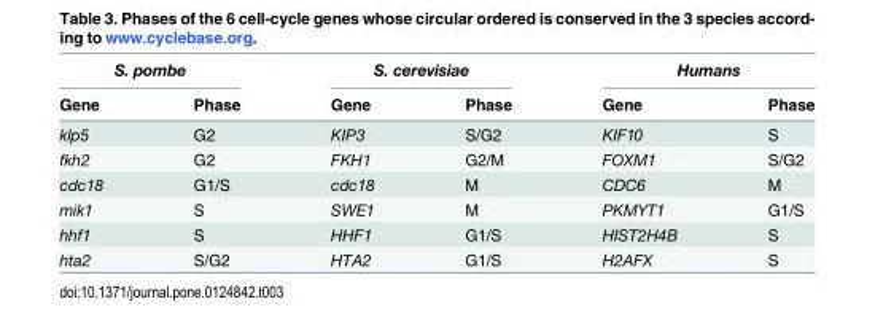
<table><thead><tr><td colspan="2">S. pombe</td><td colspan="2">S. cerevisiae</td><td colspan="2">Humans</td></tr><tr><td>Gene</td><td>Phase</td><td>Gene</td><td>Phase</td><td>Gene</td><td>Phase</td></tr></thead><tbody><tr><td>klp5</td><td>G2</td><td>KIP3</td><td>S/G2</td><td>KIF10</td><td>S</td></tr><tr><td>fkh2</td><td>G2</td><td>FKH1</td><td>G2/M</td><td>FOXM1</td><td>S/G2</td></tr><tr><td>cdc18</td><td>G1/S</td><td>cdc18</td><td>M</td><td>CDC6</td><td>M</td></tr><tr><td>mik1</td><td>S</td><td>SWE1</td><td>M</td><td>PKMYT1</td><td>G1/S</td></tr><tr><td>hhf1</td><td>S</td><td>HHF1</td><td>G1/S</td><td>HIST2H4B</td><td>S</td></tr><tr><td>hta2</td><td>S/G2</td><td>HTA2</td><td>G1/S</td><td>H2AFX</td><td>S</td></tr></tbody></table>